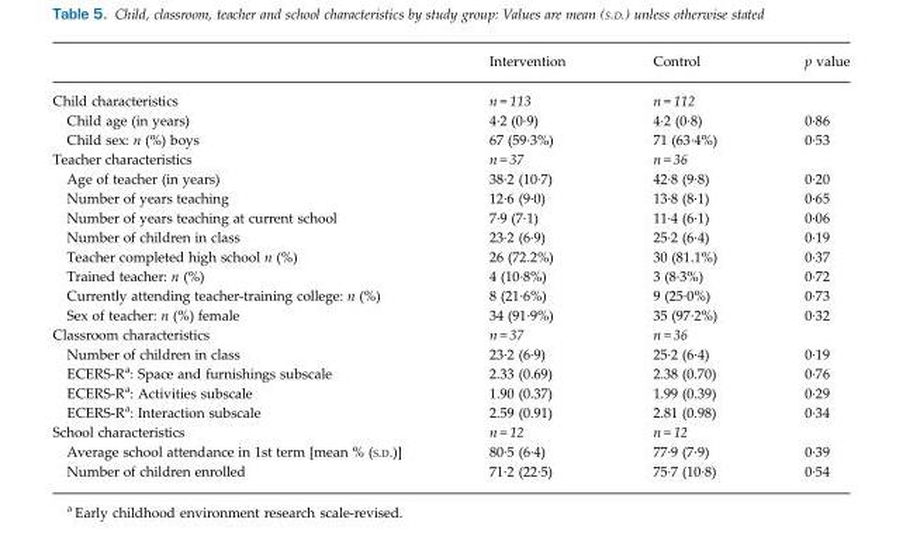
<table><thead><tr><td></td><td>Intervention</td><td>Control</td><td>p value</td></tr></thead><tbody><tr><td>Child characteristics</td><td>n = 113</td><td>n = 112</td><td></td></tr><tr><td>Child age (in years)</td><td>4·2 (0·9)</td><td>4·2 (0·8)</td><td>0·86</td></tr><tr><td>Child sex: n (%) boys</td><td>67 (59·3%)</td><td>71 (63·4%)</td><td>0·53</td></tr><tr><td>Teacher characteristics</td><td>n = 37</td><td>n = 36</td><td></td></tr><tr><td>Age of teacher (in years)</td><td>38·2 (10·7)</td><td>42·8 (9·8)</td><td>0·20</td></tr><tr><td>Number of years teaching</td><td>12·6 (9·0)</td><td>13·8 (8·1)</td><td>0·65</td></tr><tr><td>Number of years teaching at current school</td><td>7·9 (7·1)</td><td>11·4 (6·1)</td><td>0·06</td></tr><tr><td>Number of children in class</td><td>23·2 (6·9)</td><td>25·2 (6·4)</td><td>0·19</td></tr><tr><td>Teacher completed high school n (%)</td><td>26 (72.2%)</td><td>30 (81.1%)</td><td>0·37</td></tr><tr><td>Trained teacher: n (%)</td><td>4 (10·8%)</td><td>3 (8·3%)</td><td>0·72</td></tr><tr><td>Currently attending teacher-training college: n (%)</td><td>8 (21·6%)</td><td>9 (25·0%)</td><td>0·73</td></tr><tr><td>Sex of teacher: n (%) female</td><td>34 (91·9%)</td><td>35 (97·2%)</td><td>0·32</td></tr><tr><td>Classroom characteristics</td><td>n = 37</td><td>n = 36</td><td></td></tr><tr><td>Number of children in class</td><td>23·2 (6·9)</td><td>25·2 (6·4)</td><td>0·19</td></tr><tr><td>ECERS-R<sup>a</sup>: Space and furnishings subscale</td><td>2.33 (0.69)</td><td>2.38 (0.70)</td><td>0·76</td></tr><tr><td>ECERS-R<sup>a</sup>: Activities subscale</td><td>1.90 (0.37)</td><td>1.99 (0.39)</td><td>0·29</td></tr><tr><td>ECERS-R<sup>a</sup>: Interaction subscale</td><td>2.59 (0.91)</td><td>2.81 (0.98)</td><td>0·34</td></tr><tr><td>School characteristics</td><td>n = 12</td><td>n = 12</td><td></td></tr><tr><td>Average school attendance in 1st term [mean % (S.D.)]</td><td>80·5 (6·4)</td><td>77·9 (7·9)</td><td>0·39</td></tr><tr><td>Number of children enrolled</td><td>71·2 (22·5)</td><td>75·7 (10·8)</td><td>0·54</td></tr></tbody></table>